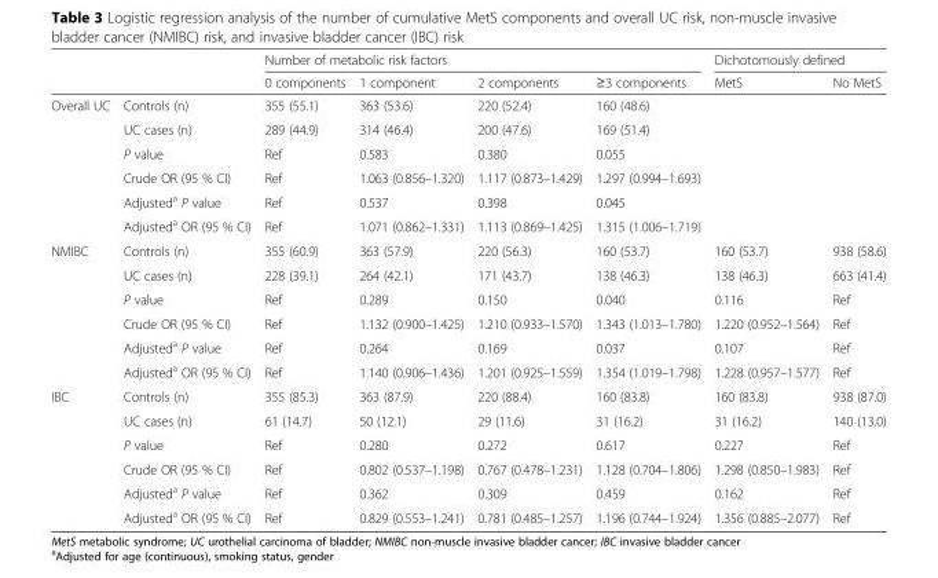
<table><thead><tr><td rowspan="2"></td><td rowspan="2"></td><td colspan="4">Number of metabolic risk factors</td><td colspan="2">Dichotomously defined</td></tr><tr><td>0 components</td><td>1 component</td><td>2 components</td><td>≥3 components</td><td>MetS</td><td>No MetS</td></tr></thead><tbody><tr><td rowspan="6">Overall UC</td><td>Controls (n)</td><td>355 (55.1)</td><td>363 (53.6)</td><td>220 (52.4)</td><td>160 (48.6)</td><td></td><td></td></tr><tr><td>UC cases (n)</td><td>289 (44.9)</td><td>314 (46.4)</td><td>200 (47.6)</td><td>169 (51.4)</td><td></td><td></td></tr><tr><td>P value</td><td>Ref</td><td>0.583</td><td>0.380</td><td>0.055</td><td></td><td></td></tr><tr><td>Crude OR (95 % CI)</td><td>Ref</td><td>1.063 (0.856–1.320)</td><td>1.117 (0.873–1.429)</td><td>1.297 (0.994–1.693)</td><td></td><td></td></tr><tr><td>Adjusted<sup>a</sup> P value</td><td>Ref</td><td>0.537</td><td>0.398</td><td>0.045</td><td></td><td></td></tr><tr><td>Adjusted<sup>a</sup> OR (95 % CI)</td><td>Ref</td><td>1.071 (0.862–1.331)</td><td>1.113 (0.869–1.425)</td><td>1.315 (1.006–1.719)</td><td></td><td></td></tr><tr><td rowspan="6">NMIBC</td><td>Controls (n)</td><td>355 (60.9)</td><td>363 (57.9)</td><td>220 (56.3)</td><td>160 (53.7)</td><td>160 (53.7)</td><td>938 (58.6)</td></tr><tr><td>UC cases (n)</td><td>228 (39.1)</td><td>264 (42.1)</td><td>171 (43.7)</td><td>138 (46.3)</td><td>138 (46.3)</td><td>663 (41.4)</td></tr><tr><td>P value</td><td>Ref</td><td>0.289</td><td>0.150</td><td>0.040</td><td>0.116</td><td>Ref</td></tr><tr><td>Crude OR (95 % CI)</td><td>Ref</td><td>1.132 (0.900–1.425)</td><td>1.210 (0.933–1.570)</td><td>1.343 (1.013–1.780)</td><td>1.220 (0.952–1.564)</td><td>Ref</td></tr><tr><td>Adjusted<sup>a</sup> P value</td><td>Ref</td><td>0.264</td><td>0.169</td><td>0.037</td><td>0.107</td><td>Ref</td></tr><tr><td>Adjusted<sup>a</sup> OR (95 % CI)</td><td>Ref</td><td>1.140 (0.906–1.436)</td><td>1.201 (0.925–1.559)</td><td>1.354 (1.019–1.798)</td><td>1.228 (0.957–1.577)</td><td>Ref</td></tr><tr><td rowspan="6">IBC</td><td>Controls (n)</td><td>355 (85.3)</td><td>363 (87.9)</td><td>220 (88.4)</td><td>160 (83.8)</td><td>160 (83.8)</td><td>938 (87.0)</td></tr><tr><td>UC cases (n)</td><td>61 (14.7)</td><td>50 (12.1)</td><td>29 (11.6)</td><td>31 (16.2)</td><td>31 (16.2)</td><td>140 (13.0)</td></tr><tr><td>P value</td><td>Ref</td><td>0.280</td><td>0.272</td><td>0.617</td><td>0.227</td><td>Ref</td></tr><tr><td>Crude OR (95 % CI)</td><td>Ref</td><td>0.802 (0.537–1.198)</td><td>0.767 (0.478–1.231)</td><td>1.128 (0.704–1.806)</td><td>1.298 (0.850–1.983)</td><td>Ref</td></tr><tr><td>Adjusted<sup>a</sup> P value</td><td>Ref</td><td>0.362</td><td>0.309</td><td>0.459</td><td>0.162</td><td>Ref</td></tr><tr><td>Adjusted<sup>a</sup> OR (95 % CI)</td><td>Ref</td><td>0.829 (0.553–1.241)</td><td>0.781 (0.485–1.257)</td><td>1.196 (0.744–1.924)</td><td>1.356 (0.885–2.077)</td><td>Ref</td></tr></tbody></table>